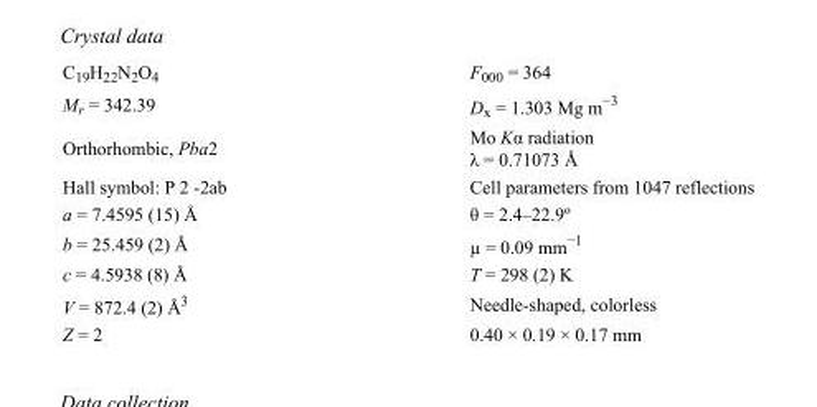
<table><tbody><tr><td>C<sub>19</sub>H<sub>22</sub>N<sub>2</sub>O<sub>4</sub></td><td>F<sub>000</sub> = 364</td></tr><tr><td>M<sub>r</sub> = 342.39</td><td>D<sub>x</sub> = 1.303 Mg m<sup>−3</sup></td></tr><tr><td>Orthorhombic, Pba2</td><td>Mo Kα radiation λ = 0.71073 Å</td></tr><tr><td>Hall symbol: P 2 -2ab</td><td>Cell parameters from 1047 reflections</td></tr><tr><td>a = 7.4595 (15) Å</td><td>θ = 2.4–22.9º</td></tr><tr><td>b = 25.459 (2) Å</td><td>µ = 0.09 mm<sup>−1</sup></td></tr><tr><td>c = 4.5938 (8) Å</td><td>T = 298 (2) K</td></tr><tr><td>V = 872.4 (2) Å<sup>3</sup></td><td>Needle-shaped, colorless</td></tr><tr><td>Z = 2</td><td>0.40 × 0.19 × 0.17 mm</td></tr></tbody></table>